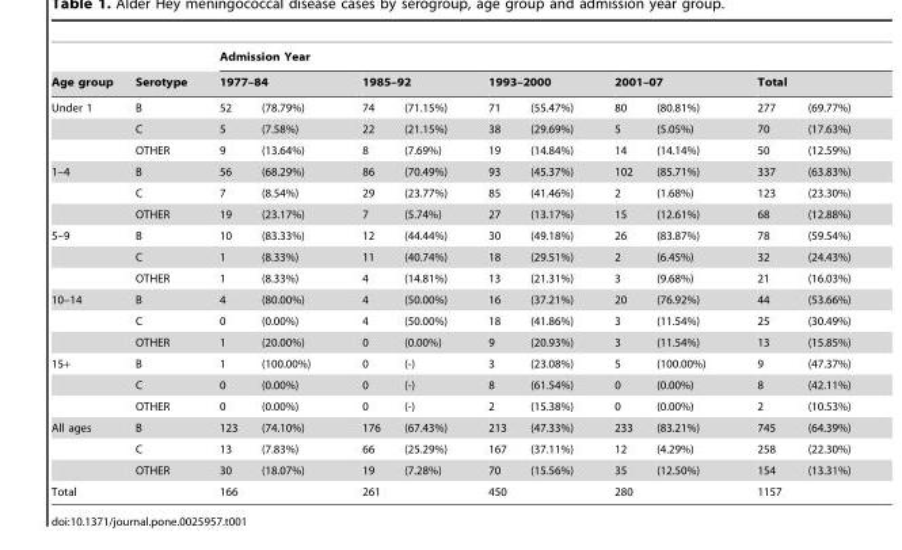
<table><thead><tr><td rowspan="3">Age group Under 1</td><td rowspan="3">Serotype B</td><td colspan="10">Admission Year</td></tr><tr><td colspan="2">1977–84</td><td colspan="2">1985–92</td><td colspan="2">1993–2000</td><td colspan="2">2001–07</td><td colspan="2">Total</td></tr><tr><td>52</td><td>(78.79%)</td><td>74</td><td>(71.15%)</td><td>71</td><td>(55.47%)</td><td>80</td><td>(80.81%)</td><td>277</td><td>(69.77%)</td></tr></thead><tbody><tr><td></td><td>C</td><td>5</td><td>(7.58%)</td><td>22</td><td>(21.15%)</td><td>38</td><td>(29.69%)</td><td>5</td><td>(5.05%)</td><td>70</td><td>(17.63%)</td></tr><tr><td></td><td>OTHER</td><td>9</td><td>(13.64%)</td><td>8</td><td>(7.69%)</td><td>19</td><td>(14.84%)</td><td>14</td><td>(14.14%)</td><td>50</td><td>(12.59%)</td></tr><tr><td rowspan="3">1–4</td><td>B</td><td>56</td><td>(68.29%)</td><td>86</td><td>(70.49%)</td><td>93</td><td>(45.37%)</td><td>102</td><td>(85.71%)</td><td>337</td><td>(63.83%)</td></tr><tr><td>C</td><td>7</td><td>(8.54%)</td><td>29</td><td>(23.77%)</td><td>85</td><td>(41.46%)</td><td>2</td><td>(1.68%)</td><td>123</td><td>(23.30%)</td></tr><tr><td>OTHER</td><td>19</td><td>(23.17%)</td><td>7</td><td>(5.74%)</td><td>27</td><td>(13.17%)</td><td>15</td><td>(12.61%)</td><td>68</td><td>(12.88%)</td></tr><tr><td rowspan="3">5–9</td><td>B</td><td>10</td><td>(83.33%)</td><td>12</td><td>(44.44%)</td><td>30</td><td>(49.18%)</td><td>26</td><td>(83.87%)</td><td>78</td><td>(59.54%)</td></tr><tr><td>C</td><td>1</td><td>(8.33%)</td><td>11</td><td>(40.74%)</td><td>18</td><td>(29.51%)</td><td>2</td><td>(6.45%)</td><td>32</td><td>(24.43%)</td></tr><tr><td>OTHER</td><td>1</td><td>(8.33%)</td><td>4</td><td>(14.81%)</td><td>13</td><td>(21.31%)</td><td>3</td><td>(9.68%)</td><td>21</td><td>(16.03%)</td></tr><tr><td rowspan="3">10–14</td><td>B</td><td>4</td><td>(80.00%)</td><td>4</td><td>(50.00%)</td><td>16</td><td>(37.21%)</td><td>20</td><td>(76.92%)</td><td>44</td><td>(53.66%)</td></tr><tr><td>C</td><td>0</td><td>(0.00%)</td><td>4</td><td>(50.00%)</td><td>18</td><td>(41.86%)</td><td>3</td><td>(11.54%)</td><td>25</td><td>(30.49%)</td></tr><tr><td>OTHER</td><td>1</td><td>(20.00%)</td><td>0</td><td>(0.00%)</td><td>9</td><td>(20.93%)</td><td>3</td><td>(11.54%)</td><td>13</td><td>(15.85%)</td></tr><tr><td rowspan="3">15+</td><td>B</td><td>1</td><td>(100.00%)</td><td>0</td><td>(-)</td><td>3</td><td>(23.08%)</td><td>5</td><td>(100.00%)</td><td>9</td><td>(47.37%)</td></tr><tr><td>C</td><td>0</td><td>(0.00%)</td><td>0</td><td>(-)</td><td>8</td><td>(61.54%)</td><td>0</td><td>(0.00%)</td><td>8</td><td>(42.11%)</td></tr><tr><td>OTHER</td><td>0</td><td>(0.00%)</td><td>0</td><td>(-)</td><td>2</td><td>(15.38%)</td><td>0</td><td>(0.00%)</td><td>2</td><td>(10.53%)</td></tr><tr><td rowspan="3">All ages</td><td>B</td><td>123</td><td>(74.10%)</td><td>176</td><td>(67.43%)</td><td>213</td><td>(47.33%)</td><td>233</td><td>(83.21%)</td><td>745</td><td>(64.39%)</td></tr><tr><td>C</td><td>13</td><td>(7.83%)</td><td>66</td><td>(25.29%)</td><td>167</td><td>(37.11%)</td><td>12</td><td>(4.29%)</td><td>258</td><td>(22.30%)</td></tr><tr><td>OTHER</td><td>30</td><td>(18.07%)</td><td>19</td><td>(7.28%)</td><td>70</td><td>(15.56%)</td><td>35</td><td>(12.50%)</td><td>154</td><td>(13.31%)</td></tr><tr><td>Total</td><td></td><td>166</td><td></td><td>261</td><td></td><td>450</td><td></td><td>280</td><td></td><td>1157</td><td></td></tr></tbody></table>